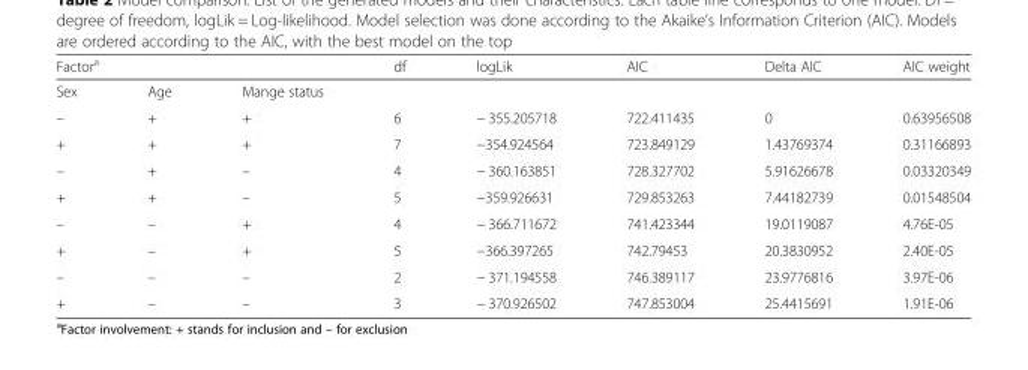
<table><thead><tr><td colspan="3">Factor<sup>a</sup></td><td rowspan="2">df</td><td rowspan="2">logLik</td><td rowspan="2">AIC</td><td rowspan="2">Delta AIC</td><td rowspan="2">AIC weight</td></tr><tr><td>Sex</td><td>Age</td><td>Mange status</td></tr></thead><tbody><tr><td>–</td><td>+</td><td>+</td><td>6</td><td>− 355.205718</td><td>722.411435</td><td>0</td><td>0.63956508</td></tr><tr><td>+</td><td>+</td><td>+</td><td>7</td><td>−354.924564</td><td>723.849129</td><td>1.43769374</td><td>0.31166893</td></tr><tr><td>–</td><td>+</td><td>–</td><td>4</td><td>− 360.163851</td><td>728.327702</td><td>5.91626678</td><td>0.03320349</td></tr><tr><td>+</td><td>+</td><td>–</td><td>5</td><td>−359.926631</td><td>729.853263</td><td>7.44182739</td><td>0.01548504</td></tr><tr><td>–</td><td>–</td><td>+</td><td>4</td><td>− 366.711672</td><td>741.423344</td><td>19.0119087</td><td>4.76E-05</td></tr><tr><td>+</td><td>–</td><td>+</td><td>5</td><td>−366.397265</td><td>742.79453</td><td>20.3830952</td><td>2.40E-05</td></tr><tr><td>–</td><td>–</td><td>–</td><td>2</td><td>− 371.194558</td><td>746.389117</td><td>23.9776816</td><td>3.97E-06</td></tr><tr><td>+</td><td>–</td><td>–</td><td>3</td><td>− 370.926502</td><td>747.853004</td><td>25.4415691</td><td>1.91E-06</td></tr></tbody></table>